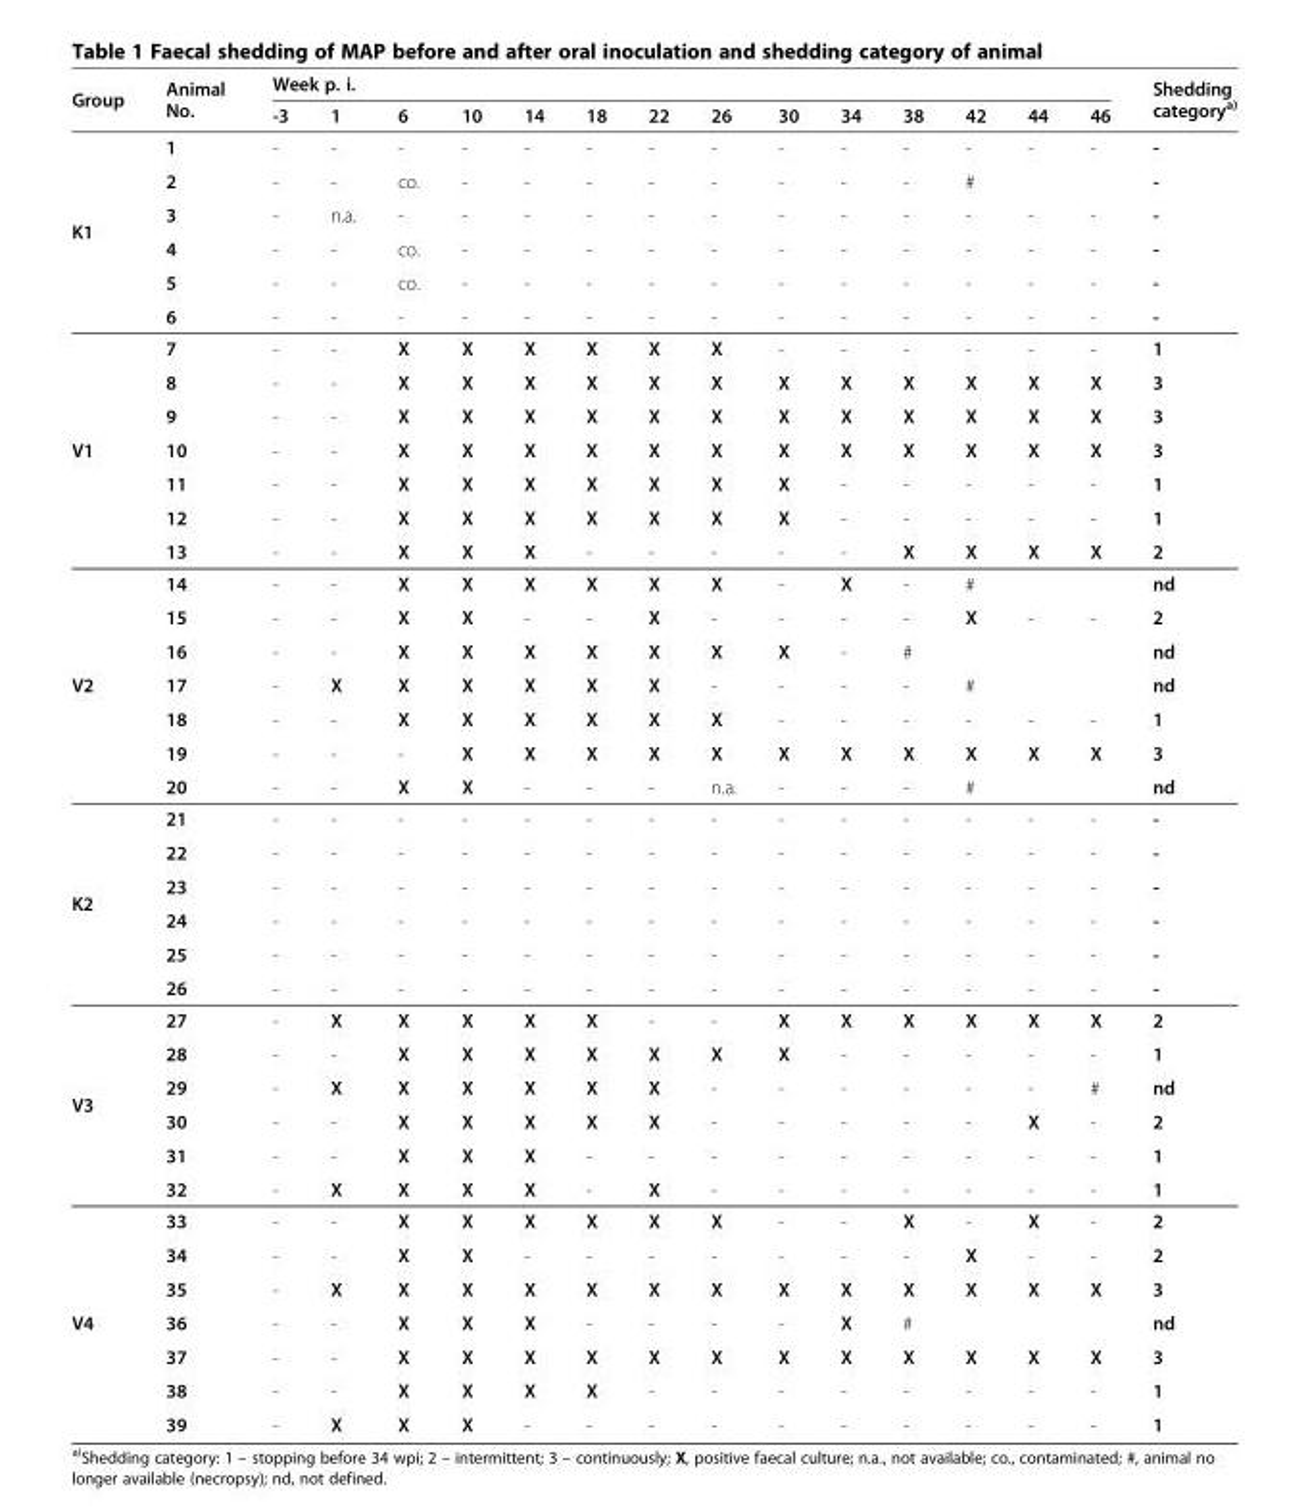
<table><thead><tr><td rowspan="2">Group</td><td rowspan="2">Animal No.</td><td colspan="14">Week p. i.</td><td rowspan="2">Shedding category<sup>a)</sup></td></tr><tr><td>-3</td><td>1</td><td>6</td><td>10</td><td>14</td><td>18</td><td>22</td><td>26</td><td>30</td><td>34</td><td>38</td><td>42</td><td>44</td><td>46</td></tr></thead><tbody><tr><td rowspan="6">K1</td><td>1</td><td>-</td><td>-</td><td>-</td><td>-</td><td>-</td><td>-</td><td>-</td><td>-</td><td>-</td><td>-</td><td>-</td><td>-</td><td>-</td><td>-</td><td>-</td></tr><tr><td>2</td><td>-</td><td>-</td><td>co.</td><td>-</td><td>-</td><td>-</td><td>-</td><td>-</td><td>-</td><td>-</td><td>-</td><td>#</td><td></td><td></td><td>-</td></tr><tr><td>3</td><td>-</td><td>n.a.</td><td>-</td><td>-</td><td>-</td><td>-</td><td>-</td><td>-</td><td>-</td><td>-</td><td>-</td><td>-</td><td>-</td><td>-</td><td>-</td></tr><tr><td>4</td><td>-</td><td>-</td><td>co.</td><td>-</td><td>-</td><td>-</td><td>-</td><td>-</td><td>-</td><td>-</td><td>-</td><td>-</td><td>-</td><td>-</td><td>-</td></tr><tr><td>5</td><td>-</td><td>-</td><td>co.</td><td>-</td><td>-</td><td>-</td><td>-</td><td>-</td><td>-</td><td>-</td><td>-</td><td>-</td><td>-</td><td>-</td><td>-</td></tr><tr><td>6</td><td>-</td><td>-</td><td>-</td><td>-</td><td>-</td><td>-</td><td>-</td><td>-</td><td>-</td><td>-</td><td>-</td><td>-</td><td>-</td><td>-</td><td>-</td></tr><tr><td rowspan="7">V1</td><td>7</td><td>-</td><td>-</td><td>X</td><td>X</td><td>X</td><td>X</td><td>X</td><td>X</td><td>-</td><td>-</td><td>-</td><td>-</td><td>-</td><td>-</td><td>1</td></tr><tr><td>8</td><td>-</td><td>-</td><td>X</td><td>X</td><td>X</td><td>X</td><td>X</td><td>X</td><td>X</td><td>X</td><td>X</td><td>X</td><td>X</td><td>X</td><td>3</td></tr><tr><td>9</td><td>-</td><td>-</td><td>X</td><td>X</td><td>X</td><td>X</td><td>X</td><td>X</td><td>X</td><td>X</td><td>X</td><td>X</td><td>X</td><td>X</td><td>3</td></tr><tr><td>10</td><td>-</td><td>-</td><td>X</td><td>X</td><td>X</td><td>X</td><td>X</td><td>X</td><td>X</td><td>X</td><td>X</td><td>X</td><td>X</td><td>X</td><td>3</td></tr><tr><td>11</td><td>-</td><td>-</td><td>X</td><td>X</td><td>X</td><td>X</td><td>X</td><td>X</td><td>X</td><td>-</td><td>-</td><td>-</td><td>-</td><td>-</td><td>1</td></tr><tr><td>12</td><td>-</td><td>-</td><td>X</td><td>X</td><td>X</td><td>X</td><td>X</td><td>X</td><td>X</td><td>-</td><td>-</td><td>-</td><td>-</td><td>-</td><td>1</td></tr><tr><td>13</td><td>-</td><td>-</td><td>X</td><td>X</td><td>X</td><td>-</td><td>-</td><td>-</td><td>-</td><td>-</td><td>X</td><td>X</td><td>X</td><td>X</td><td>2</td></tr><tr><td rowspan="7">V2</td><td>14</td><td>-</td><td>-</td><td>X</td><td>X</td><td>X</td><td>X</td><td>X</td><td>X</td><td>-</td><td>X</td><td>-</td><td>#</td><td></td><td></td><td>nd</td></tr><tr><td>15</td><td>-</td><td>-</td><td>X</td><td>X</td><td>-</td><td>-</td><td>X</td><td>-</td><td>-</td><td>-</td><td>-</td><td>X</td><td>-</td><td>-</td><td>2</td></tr><tr><td>16</td><td>-</td><td>-</td><td>X</td><td>X</td><td>X</td><td>X</td><td>X</td><td>X</td><td>X</td><td>-</td><td>#</td><td></td><td></td><td></td><td>nd</td></tr><tr><td>17</td><td>-</td><td>X</td><td>X</td><td>X</td><td>X</td><td>X</td><td>X</td><td>-</td><td>-</td><td>-</td><td>-</td><td>#</td><td></td><td></td><td>nd</td></tr><tr><td>18</td><td>-</td><td>-</td><td>X</td><td>X</td><td>X</td><td>X</td><td>X</td><td>X</td><td>-</td><td>-</td><td>-</td><td>-</td><td>-</td><td>-</td><td>1</td></tr><tr><td>19</td><td>-</td><td>-</td><td>-</td><td>X</td><td>X</td><td>X</td><td>X</td><td>X</td><td>X</td><td>X</td><td>X</td><td>X</td><td>X</td><td>X</td><td>3</td></tr><tr><td>20</td><td>-</td><td>-</td><td>X</td><td>X</td><td>-</td><td>-</td><td>-</td><td>n.a.</td><td>-</td><td>-</td><td>-</td><td>#</td><td></td><td></td><td>nd</td></tr><tr><td rowspan="6">K2</td><td>21</td><td>-</td><td>-</td><td>-</td><td>-</td><td>-</td><td>-</td><td>-</td><td>-</td><td>-</td><td>-</td><td>-</td><td>-</td><td>-</td><td>-</td><td>-</td></tr><tr><td>22</td><td>-</td><td>-</td><td>-</td><td>-</td><td>-</td><td>-</td><td>-</td><td>-</td><td>-</td><td>-</td><td>-</td><td>-</td><td>-</td><td>-</td><td>-</td></tr><tr><td>23</td><td>-</td><td>-</td><td>-</td><td>-</td><td>-</td><td>-</td><td>-</td><td>-</td><td>-</td><td>-</td><td>-</td><td>-</td><td>-</td><td>-</td><td>-</td></tr><tr><td>24</td><td>-</td><td>-</td><td>-</td><td>-</td><td>-</td><td>-</td><td>-</td><td>-</td><td>-</td><td>-</td><td>-</td><td>-</td><td>-</td><td>-</td><td>-</td></tr><tr><td>25</td><td>-</td><td>-</td><td>-</td><td>-</td><td>-</td><td>-</td><td>-</td><td>-</td><td>-</td><td>-</td><td>-</td><td>-</td><td>-</td><td>-</td><td>-</td></tr><tr><td>26</td><td>-</td><td>-</td><td>-</td><td>-</td><td>-</td><td>-</td><td>-</td><td>-</td><td>-</td><td>-</td><td>-</td><td>-</td><td>-</td><td>-</td><td>-</td></tr><tr><td rowspan="6">V3</td><td>27</td><td>-</td><td>X</td><td>X</td><td>X</td><td>X</td><td>X</td><td>-</td><td>-</td><td>X</td><td>X</td><td>X</td><td>X</td><td>X</td><td>X</td><td>2</td></tr><tr><td>28</td><td>-</td><td>-</td><td>X</td><td>X</td><td>X</td><td>X</td><td>X</td><td>X</td><td>X</td><td>-</td><td>-</td><td>-</td><td>-</td><td>-</td><td>1</td></tr><tr><td>29</td><td>-</td><td>X</td><td>X</td><td>X</td><td>X</td><td>X</td><td>X</td><td>-</td><td>-</td><td>-</td><td>-</td><td>-</td><td>-</td><td>#</td><td>nd</td></tr><tr><td>30</td><td>-</td><td>-</td><td>X</td><td>X</td><td>X</td><td>X</td><td>X</td><td>-</td><td>-</td><td>-</td><td>-</td><td>-</td><td>X</td><td>-</td><td>2</td></tr><tr><td>31</td><td>-</td><td>-</td><td>X</td><td>X</td><td>X</td><td>-</td><td>-</td><td>-</td><td>-</td><td>-</td><td>-</td><td>-</td><td>-</td><td>-</td><td>1</td></tr><tr><td>32</td><td>-</td><td>X</td><td>X</td><td>X</td><td>X</td><td>-</td><td>X</td><td>-</td><td>-</td><td>-</td><td>-</td><td>-</td><td>-</td><td>-</td><td>1</td></tr><tr><td rowspan="7">V4</td><td>33</td><td>-</td><td>-</td><td>X</td><td>X</td><td>X</td><td>X</td><td>X</td><td>X</td><td>-</td><td>-</td><td>X</td><td>-</td><td>X</td><td>-</td><td>2</td></tr><tr><td>34</td><td>-</td><td>-</td><td>X</td><td>X</td><td>-</td><td>-</td><td>-</td><td>-</td><td>-</td><td>-</td><td>-</td><td>X</td><td>-</td><td>-</td><td>2</td></tr><tr><td>35</td><td>-</td><td>X</td><td>X</td><td>X</td><td>X</td><td>X</td><td>X</td><td>X</td><td>X</td><td>X</td><td>X</td><td>X</td><td>X</td><td>X</td><td>3</td></tr><tr><td>36</td><td>-</td><td>-</td><td>X</td><td>X</td><td>X</td><td>-</td><td>-</td><td>-</td><td>-</td><td>X</td><td>#</td><td></td><td></td><td></td><td>nd</td></tr><tr><td>37</td><td>-</td><td>-</td><td>X</td><td>X</td><td>X</td><td>X</td><td>X</td><td>X</td><td>X</td><td>X</td><td>X</td><td>X</td><td>X</td><td>X</td><td>3</td></tr><tr><td>38</td><td>-</td><td>-</td><td>X</td><td>X</td><td>X</td><td>X</td><td>-</td><td>-</td><td>-</td><td>-</td><td>-</td><td>-</td><td>-</td><td>-</td><td>1</td></tr><tr><td>39</td><td>-</td><td>X</td><td>X</td><td>X</td><td>-</td><td>-</td><td>-</td><td>-</td><td>-</td><td>-</td><td>-</td><td>-</td><td>-</td><td>-</td><td>1</td></tr></tbody></table>